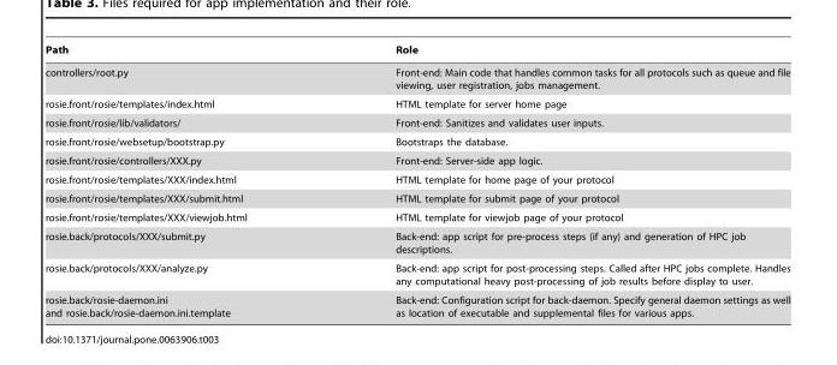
<table><thead><tr><td>Path</td><td>Role</td></tr></thead><tbody><tr><td>controllers/root.py</td><td>Front-end: Main code that handles common tasks for all protocols such as queue and file viewing, user registration, jobs management.</td></tr><tr><td>rosie.front/rosie/templates/index.html</td><td>HTML template for server home page</td></tr><tr><td>rosie.front/rosie/lib/validators/</td><td>Front-end: Sanitizes and validates user inputs.</td></tr><tr><td>rosie.front/rosie/websetup/bootstrap.py</td><td>Bootstraps the database.</td></tr><tr><td>rosie.front/rosie/controllers/XXX.py</td><td>Front-end: Server-side app logic.</td></tr><tr><td>rosie.front/rosie/templates/XXX/index.html</td><td>HTML template for home page of your protocol</td></tr><tr><td>rosie.front/rosie/templates/XXX/submit.html</td><td>HTML template for submit page of your protocol</td></tr><tr><td>rosie.front/rosie/templates/XXX/viewjob.html</td><td>HTML template for viewjob page of your protocol</td></tr><tr><td>rosie.back/protocols/XXX/submit.py</td><td>Back-end: app script for pre-process steps (if any) and generation of HPC job descriptions.</td></tr><tr><td>rosie.back/protocols/XXX/analyze.py</td><td>Back-end: app script for post-processing steps. Called after HPC jobs complete. Handles any computational heavy post-processing of job results before display to user.</td></tr><tr><td>rosie.back/rosie-daemon.ini and rosie.back/rosie-daemon.ini.template</td><td>Back-end: Configuration script for back-daemon. Specify general daemon settings as well as location of executable and supplemental files for various apps.</td></tr></tbody></table>